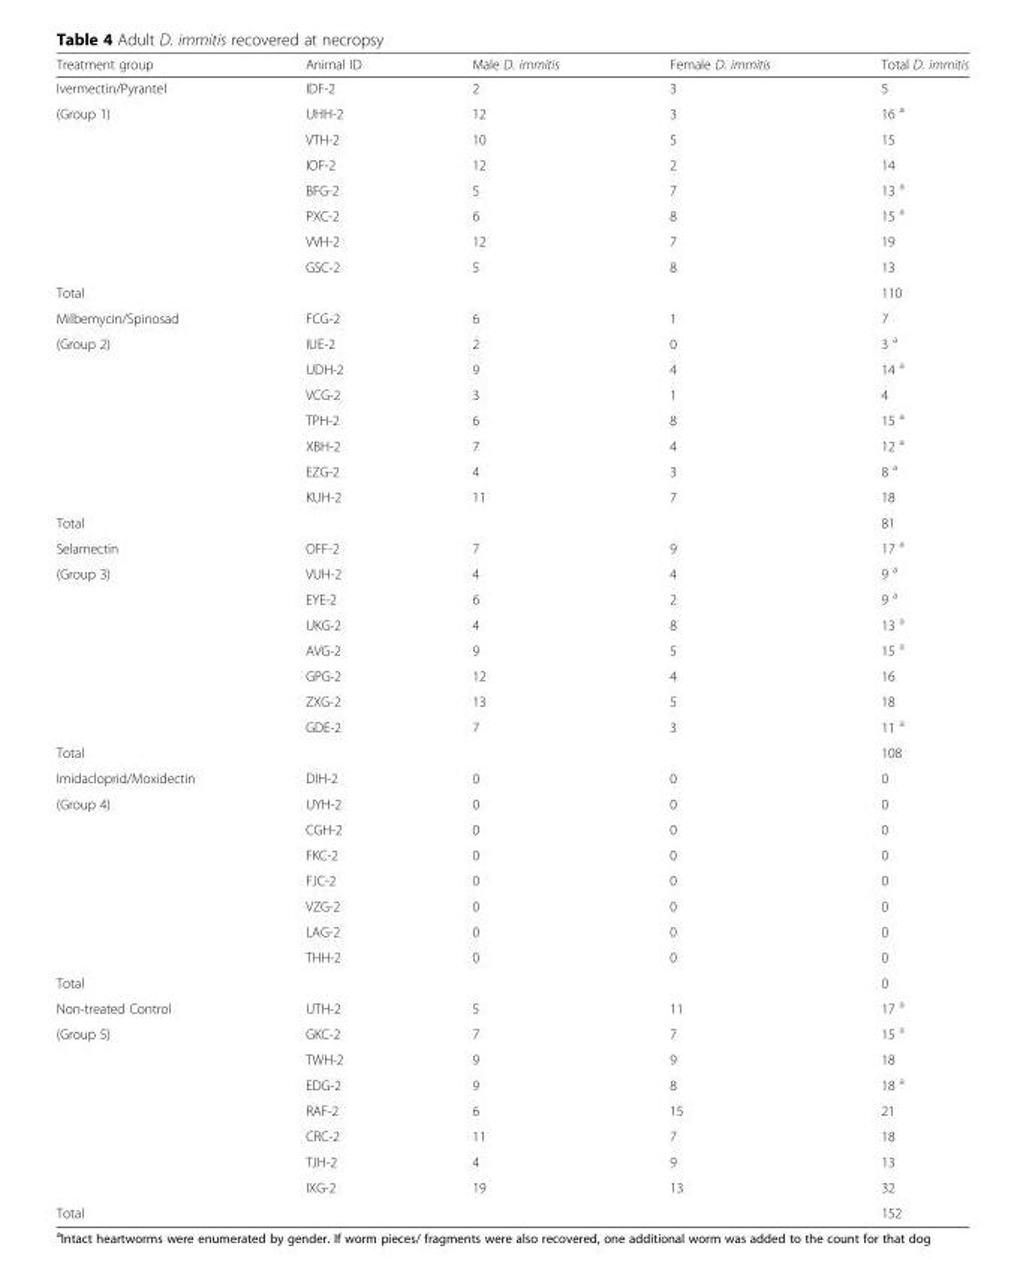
<table><thead><tr><td>Treatment group</td><td>Animal ID</td><td>Male D. immitis</td><td>Female D. immitis</td><td>Total D. immitis</td></tr></thead><tbody><tr><td>Ivermectin/Pyrantel</td><td>IDF-2</td><td>2</td><td>3</td><td>5</td></tr><tr><td rowspan="7">(Group 1)</td><td>UHH-2</td><td>12</td><td>3</td><td>16 <sup>a</sup></td></tr><tr><td>VTH-2</td><td>10</td><td>5</td><td>15</td></tr><tr><td>IOF-2</td><td>12</td><td>2</td><td>14</td></tr><tr><td>BFG-2</td><td>5</td><td>7</td><td>13 <sup>a</sup></td></tr><tr><td>PXC-2</td><td>6</td><td>8</td><td>15 <sup>a</sup></td></tr><tr><td>VVH-2</td><td>12</td><td>7</td><td>19</td></tr><tr><td>GSC-2</td><td>5</td><td>8</td><td>13</td></tr><tr><td>Total</td><td></td><td></td><td></td><td>110</td></tr><tr><td>Milbemycin/Spinosad</td><td>FCG-2</td><td>6</td><td>1</td><td>7</td></tr><tr><td rowspan="7">(Group 2)</td><td>IUE-2</td><td>2</td><td>0</td><td>3 <sup>a</sup></td></tr><tr><td>UDH-2</td><td>9</td><td>4</td><td>14 <sup>a</sup></td></tr><tr><td>VCG-2</td><td>3</td><td>1</td><td>4</td></tr><tr><td>TPH-2</td><td>6</td><td>8</td><td>15 <sup>a</sup></td></tr><tr><td>XBH-2</td><td>7</td><td>4</td><td>12 <sup>a</sup></td></tr><tr><td>EZG-2</td><td>4</td><td>3</td><td>8 <sup>a</sup></td></tr><tr><td>KUH-2</td><td>11</td><td>7</td><td>18</td></tr><tr><td>Total</td><td></td><td></td><td></td><td>81</td></tr><tr><td>Selamectin</td><td>OFF-2</td><td>7</td><td>9</td><td>17 <sup>a</sup></td></tr><tr><td rowspan="7">(Group 3)</td><td>VUH-2</td><td>4</td><td>4</td><td>9 <sup>a</sup></td></tr><tr><td>EYE-2</td><td>6</td><td>2</td><td>9 <sup>a</sup></td></tr><tr><td>UKG-2</td><td>4</td><td>8</td><td>13 <sup>a</sup></td></tr><tr><td>AVG-2</td><td>9</td><td>5</td><td>15 <sup>a</sup></td></tr><tr><td>GPG-2</td><td>12</td><td>4</td><td>16</td></tr><tr><td>ZXG-2</td><td>13</td><td>5</td><td>18</td></tr><tr><td>GDE-2</td><td>7</td><td>3</td><td>11 <sup>a</sup></td></tr><tr><td>Total</td><td></td><td></td><td></td><td>108</td></tr><tr><td>Imidacloprid/Moxidectin</td><td>DIH-2</td><td>0</td><td>0</td><td>0</td></tr><tr><td rowspan="7">(Group 4)</td><td>UYH-2</td><td>0</td><td>0</td><td>0</td></tr><tr><td>CGH-2</td><td>0</td><td>0</td><td>0</td></tr><tr><td>FKC-2</td><td>0</td><td>0</td><td>0</td></tr><tr><td>FJC-2</td><td>0</td><td>0</td><td>0</td></tr><tr><td>VZG-2</td><td>0</td><td>0</td><td>0</td></tr><tr><td>LAG-2</td><td>0</td><td>0</td><td>0</td></tr><tr><td>THH-2</td><td>0</td><td>0</td><td>0</td></tr><tr><td>Total</td><td></td><td></td><td></td><td>0</td></tr><tr><td>Non-treated Control</td><td>UTH-2</td><td>5</td><td>11</td><td>17 <sup>a</sup></td></tr><tr><td rowspan="7">(Group 5)</td><td>GKC-2</td><td>7</td><td>7</td><td>15 <sup>a</sup></td></tr><tr><td>TWH-2</td><td>9</td><td>9</td><td>18</td></tr><tr><td>EDG-2</td><td>9</td><td>8</td><td>18 <sup>a</sup></td></tr><tr><td>RAF-2</td><td>6</td><td>15</td><td>21</td></tr><tr><td>CRC-2</td><td>11</td><td>7</td><td>18</td></tr><tr><td>TJH-2</td><td>4</td><td>9</td><td>13</td></tr><tr><td>IXG-2</td><td>19</td><td>13</td><td>32</td></tr><tr><td>Total</td><td></td><td></td><td></td><td>152</td></tr></tbody></table>